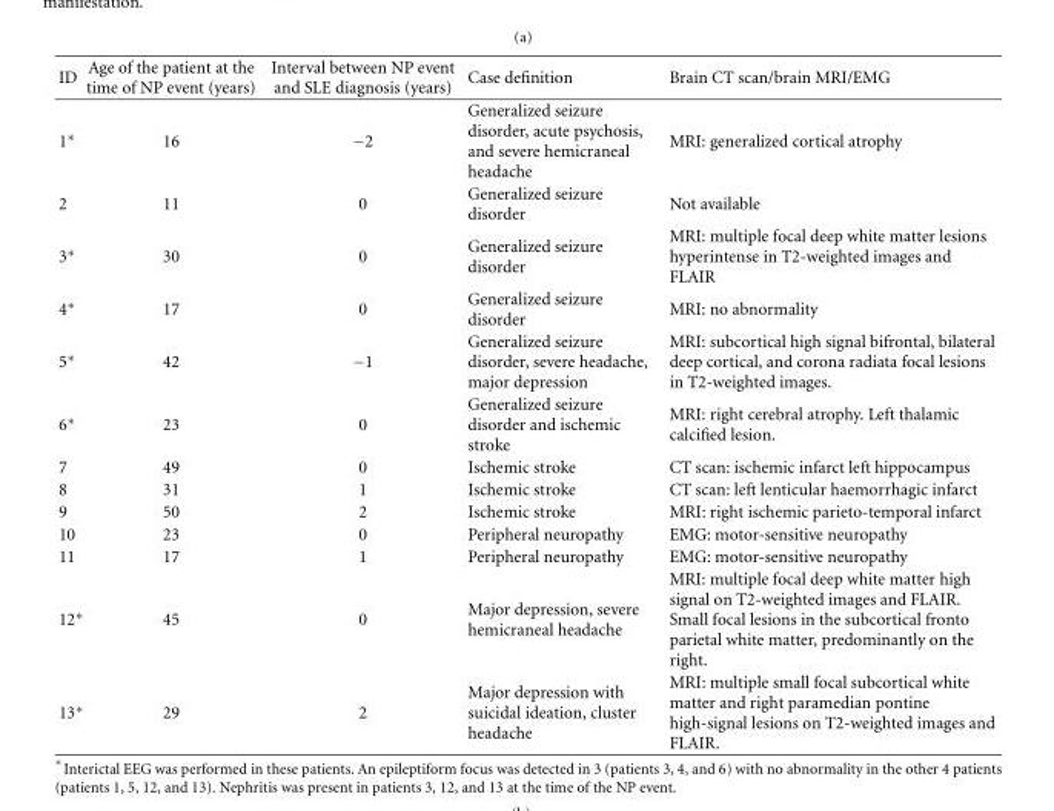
<table><thead><tr><td>ID</td><td>Age of the patient at the time of NP event (years)</td><td>Interval between NP event and SLE diagnosis (years)</td><td>Case definition</td><td>Brain CT scan/brain MRI/EMG</td></tr></thead><tbody><tr><td>1∗</td><td>16</td><td>−2</td><td>Generalized seizure disorder, acute psychosis, and severe hemicraneal headache</td><td>MRI: generalized cortical atrophy</td></tr><tr><td>2</td><td>11</td><td>0</td><td>Generalized seizure disorder</td><td>Not available</td></tr><tr><td>3∗</td><td>30</td><td>0</td><td>Generalized seizure disorder</td><td>MRI: multiple focal deep white matter lesions hyperintense in T2-weighted images and FLAIR</td></tr><tr><td>4∗</td><td>17</td><td>0</td><td>Generalized seizure disorder</td><td>MRI: no abnormality</td></tr><tr><td>5∗</td><td>42</td><td>−1</td><td>Generalized seizure disorder, severe headache, major depression</td><td>MRI: subcortical high signal bifrontal, bilateral deep cortical, and corona radiata focal lesions in T2-weighted images.</td></tr><tr><td>6∗</td><td>23</td><td>0</td><td>Generalized seizure disorder and ischemic stroke</td><td>MRI: right cerebral atrophy. Left thalamic calcified lesion.</td></tr><tr><td>7</td><td>49</td><td>0</td><td>Ischemic stroke</td><td>CT scan: ischemic infarct left hippocampus</td></tr><tr><td>8</td><td>31</td><td>1</td><td>Ischemic stroke</td><td>CT scan: left lenticular haemorrhagic infarct</td></tr><tr><td>9</td><td>50</td><td>2</td><td>Ischemic stroke</td><td>MRI: right ischemic parieto-temporal infarct</td></tr><tr><td>10</td><td>23</td><td>0</td><td>Peripheral neuropathy</td><td>EMG: motor-sensitive neuropathy</td></tr><tr><td>11</td><td>17</td><td>1</td><td>Peripheral neuropathy</td><td>EMG: motor-sensitive neuropathy</td></tr><tr><td>12∗</td><td>45</td><td>0</td><td>Major depression, severe hemicraneal headache</td><td>MRI: multiple focal deep white matter high signal on T2-weighted images and FLAIR. Small focal lesions in the subcortical fronto parietal white matter, predominantly on the right.</td></tr><tr><td>13∗</td><td>29</td><td>2</td><td>Major depression with suicidal ideation, cluster headache</td><td>MRI: multiple small focal subcortical white matter and right paramedian pontine high-signal lesions on T2-weighted images and FLAIR.</td></tr></tbody></table>